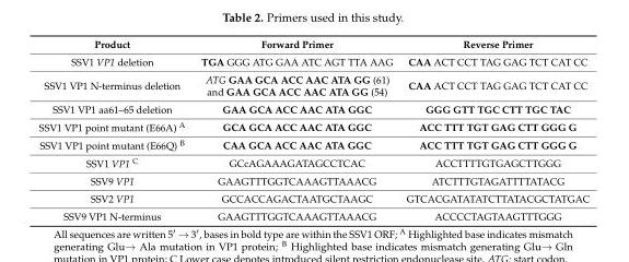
<table><thead><tr><td>Product</td><td>Forward Primer</td><td>Reverse Primer</td></tr></thead><tbody><tr><td>SSV1 VP1 deletion</td><td>TGA GGG ATG GAA ATC AGT TTA AAG</td><td>CAA ACT CCT TAG GAG TCT CAT CC</td></tr><tr><td>SSV1 VP1 N-terminus deletion</td><td>ATG GAA GCA ACC AAC ATA GG (61) and GAA GCA ACC AAC ATA GG (54)</td><td>CAA ACT CCT TAG GAG TCT CAT CC</td></tr><tr><td>SSV1 VP1 aa61–65 deletion</td><td>GAA GCA ACC AAC ATA GGC</td><td>GGG GTT TGC CTT TGC TAC</td></tr><tr><td>SSV1 VP1 point mutant (E66A) <sup>A</sup></td><td>GCA GCA ACC AAC ATA GGC</td><td>ACC TTT TGT GAG CTT GGG G</td></tr><tr><td>SSV1 VP1 point mutant (E66Q) <sup>B</sup></td><td>CAA GCA ACC AAC ATA GGC</td><td>ACC TTT TGT GAG CTT GGG G</td></tr><tr><td>SSV1 VP1 <sup>C</sup></td><td>GCcAGAAAGATAGCCTCAC</td><td>ACCTTTTGTGAGCTTGGG</td></tr><tr><td>SSV9 VP1</td><td>GAAGTTTGGTCAAAGTTAAACG</td><td>ATCTTTGTAGATTTTATACG</td></tr><tr><td>SSV2 VP1</td><td>GCCACCAGACTAATGCTAAGC</td><td>GTCACGATATATCTTATACGCTATGAC</td></tr><tr><td>SSV9 VP1 N-terminus</td><td>GAAGTTTGGTCAAAGTTAAACG</td><td>ACCCCTAGTAAGTTTGGG</td></tr></tbody></table>